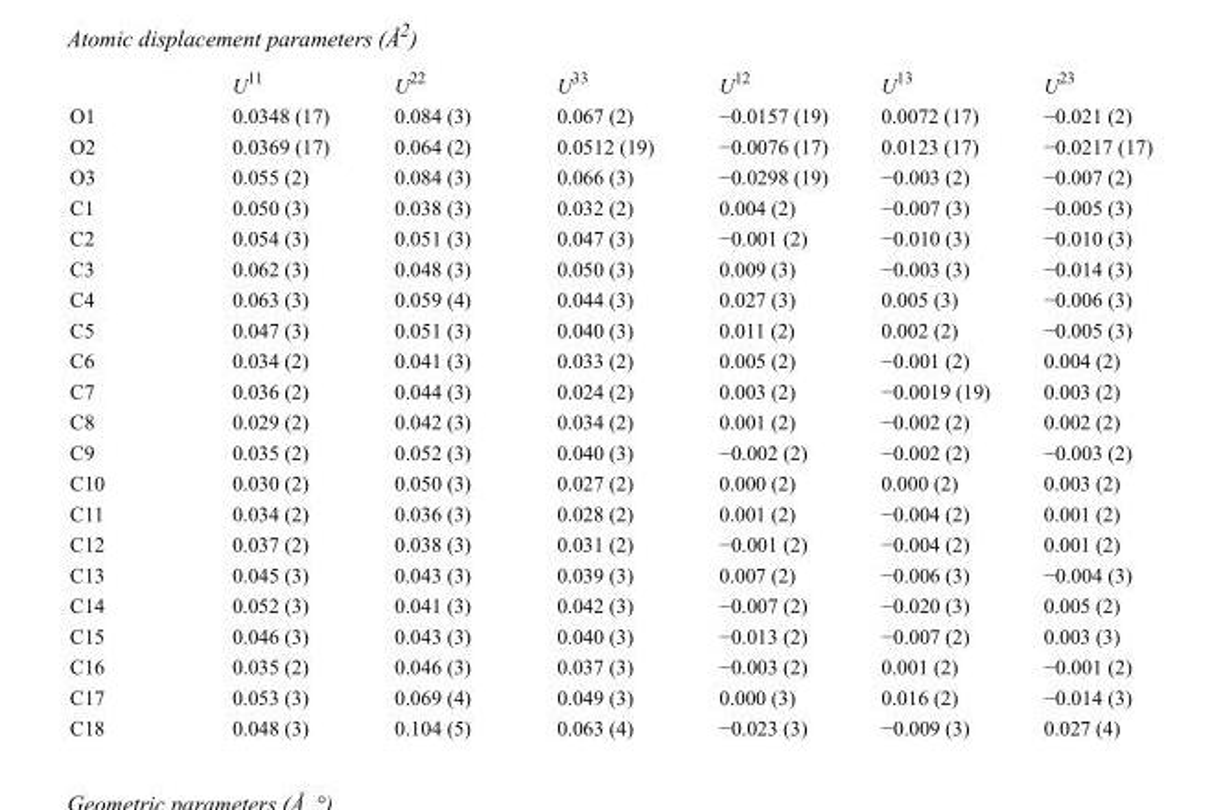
<table><thead><tr><td></td><td>U<sup>11</sup></td><td>U<sup>22</sup></td><td>U<sup>33</sup></td><td>U<sup>12</sup></td><td>U<sup>13</sup></td><td>U<sup>23</sup></td></tr></thead><tbody><tr><td>O1</td><td>0.0348 (17)</td><td>0.084 (3)</td><td>0.067 (2)</td><td>−0.0157 (19)</td><td>0.0072 (17)</td><td>−0.021 (2)</td></tr><tr><td>O2</td><td>0.0369 (17)</td><td>0.064 (2)</td><td>0.0512 (19)</td><td>−0.0076 (17)</td><td>0.0123 (17)</td><td>−0.0217 (17)</td></tr><tr><td>O3</td><td>0.055 (2)</td><td>0.084 (3)</td><td>0.066 (3)</td><td>−0.0298 (19)</td><td>−0.003 (2)</td><td>−0.007 (2)</td></tr><tr><td>C1</td><td>0.050 (3)</td><td>0.038 (3)</td><td>0.032 (2)</td><td>0.004 (2)</td><td>−0.007 (3)</td><td>−0.005 (3)</td></tr><tr><td>C2</td><td>0.054 (3)</td><td>0.051 (3)</td><td>0.047 (3)</td><td>−0.001 (2)</td><td>−0.010 (3)</td><td>−0.010 (3)</td></tr><tr><td>C3</td><td>0.062 (3)</td><td>0.048 (3)</td><td>0.050 (3)</td><td>0.009 (3)</td><td>−0.003 (3)</td><td>−0.014 (3)</td></tr><tr><td>C4</td><td>0.063 (3)</td><td>0.059 (4)</td><td>0.044 (3)</td><td>0.027 (3)</td><td>0.005 (3)</td><td>−0.006 (3)</td></tr><tr><td>C5</td><td>0.047 (3)</td><td>0.051 (3)</td><td>0.040 (3)</td><td>0.011 (2)</td><td>0.002 (2)</td><td>−0.005 (3)</td></tr><tr><td>C6</td><td>0.034 (2)</td><td>0.041 (3)</td><td>0.033 (2)</td><td>0.005 (2)</td><td>−0.001 (2)</td><td>0.004 (2)</td></tr><tr><td>C7</td><td>0.036 (2)</td><td>0.044 (3)</td><td>0.024 (2)</td><td>0.003 (2)</td><td>−0.0019 (19)</td><td>0.003 (2)</td></tr><tr><td>C8</td><td>0.029 (2)</td><td>0.042 (3)</td><td>0.034 (2)</td><td>0.001 (2)</td><td>−0.002 (2)</td><td>0.002 (2)</td></tr><tr><td>C9</td><td>0.035 (2)</td><td>0.052 (3)</td><td>0.040 (3)</td><td>−0.002 (2)</td><td>−0.002 (2)</td><td>−0.003 (2)</td></tr><tr><td>C10</td><td>0.030 (2)</td><td>0.050 (3)</td><td>0.027 (2)</td><td>0.000 (2)</td><td>0.000 (2)</td><td>0.003 (2)</td></tr><tr><td>C11</td><td>0.034 (2)</td><td>0.036 (3)</td><td>0.028 (2)</td><td>0.001 (2)</td><td>−0.004 (2)</td><td>0.001 (2)</td></tr><tr><td>C12</td><td>0.037 (2)</td><td>0.038 (3)</td><td>0.031 (2)</td><td>−0.001 (2)</td><td>−0.004 (2)</td><td>0.001 (2)</td></tr><tr><td>C13</td><td>0.045 (3)</td><td>0.043 (3)</td><td>0.039 (3)</td><td>0.007 (2)</td><td>−0.006 (3)</td><td>−0.004 (3)</td></tr><tr><td>C14</td><td>0.052 (3)</td><td>0.041 (3)</td><td>0.042 (3)</td><td>−0.007 (2)</td><td>−0.020 (3)</td><td>0.005 (2)</td></tr><tr><td>C15</td><td>0.046 (3)</td><td>0.043 (3)</td><td>0.040 (3)</td><td>−0.013 (2)</td><td>−0.007 (2)</td><td>0.003 (3)</td></tr><tr><td>C16</td><td>0.035 (2)</td><td>0.046 (3)</td><td>0.037 (3)</td><td>−0.003 (2)</td><td>0.001 (2)</td><td>−0.001 (2)</td></tr><tr><td>C17</td><td>0.053 (3)</td><td>0.069 (4)</td><td>0.049 (3)</td><td>0.000 (3)</td><td>0.016 (2)</td><td>−0.014 (3)</td></tr><tr><td>C18</td><td>0.048 (3)</td><td>0.104 (5)</td><td>0.063 (4)</td><td>−0.023 (3)</td><td>−0.009 (3)</td><td>0.027 (4)</td></tr></tbody></table>